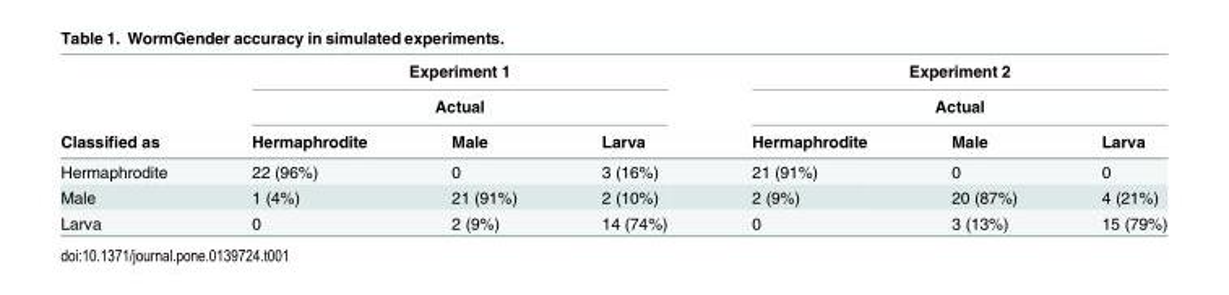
<table><thead><tr><td rowspan="3">Classified as</td><td rowspan="2" colspan="3">Experiment 1 Actual</td><td rowspan="2" colspan="3">Experiment 2 Actual</td></tr><tr></tr><tr><td>Hermaphrodite</td><td>Male</td><td>Larva</td><td>Hermaphrodite</td><td>Male</td><td>Larva</td></tr></thead><tbody><tr><td>Hermaphrodite</td><td>22 (96%)</td><td>0</td><td>3 (16%)</td><td>21 (91%)</td><td>0</td><td>0</td></tr><tr><td>Male</td><td>1 (4%)</td><td>21 (91%)</td><td>2 (10%)</td><td>2 (9%)</td><td>20 (87%)</td><td>4 (21%)</td></tr><tr><td>Larva</td><td>0</td><td>2 (9%)</td><td>14 (74%)</td><td>0</td><td>3 (13%)</td><td>15 (79%)</td></tr></tbody></table>